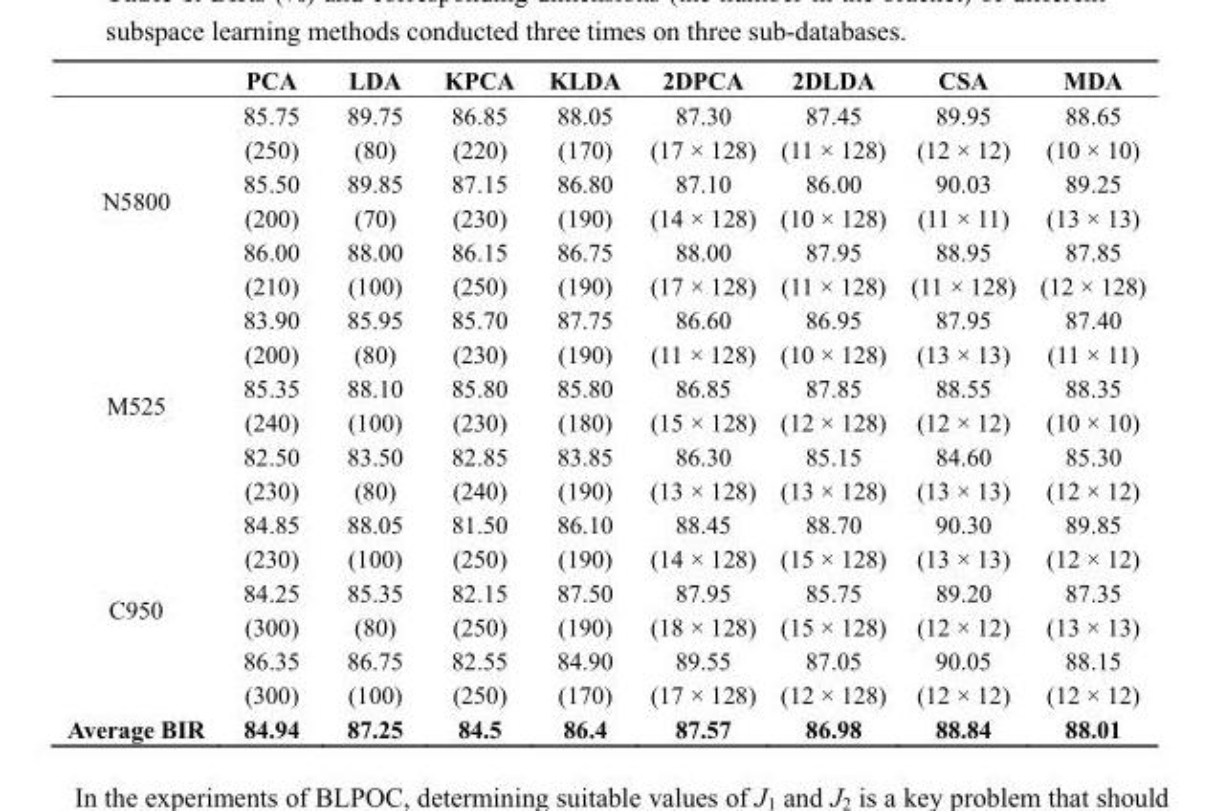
<table><thead><tr><td></td><td>PCA</td><td>LDA</td><td>KPCA</td><td>KLDA</td><td>2DPCA</td><td>2DLDA</td><td>CSA</td><td>MDA</td></tr></thead><tbody><tr><td rowspan="3">N5800</td><td>85.75 (250)</td><td>89.75 (80)</td><td>86.85 (220)</td><td>88.05 (170)</td><td>87.30 (17 × 128)</td><td>87.45 (11 × 128)</td><td>89.95 (12 × 12)</td><td>88.65 (10 × 10)</td></tr><tr><td>85.50 (200)</td><td>89.85 (70)</td><td>87.15 (230)</td><td>86.80 (190)</td><td>87.10 (14 × 128)</td><td>86.00 (10 × 128)</td><td>90.03 (11 × 11)</td><td>89.25 (13 × 13)</td></tr><tr><td>86.00 (210)</td><td>88.00 (100)</td><td>86.15 (250)</td><td>86.75 (190)</td><td>88.00 (17 × 128)</td><td>87.95 (11 × 128)</td><td>88.95 (11 × 128)</td><td>87.85 (12 × 128)</td></tr><tr><td rowspan="3">M525</td><td>83.90 (200)</td><td>85.95 (80)</td><td>85.70 (230)</td><td>87.75 (190)</td><td>86.60 (11 × 128)</td><td>86.95 (10 × 128)</td><td>87.95 (13 × 13)</td><td>87.40 (11 × 11)</td></tr><tr><td>85.35 (240)</td><td>88.10 (100)</td><td>85.80 (230)</td><td>85.80 (180)</td><td>86.85 (15 × 128)</td><td>87.85 (12 × 128)</td><td>88.55 (12 × 12)</td><td>88.35 (10 × 10)</td></tr><tr><td>82.50 (230)</td><td>83.50 (80)</td><td>82.85 (240)</td><td>83.85 (190)</td><td>86.30 (13 × 128)</td><td>85.15 (13 × 128)</td><td>84.60 (13 × 13)</td><td>85.30 (12 × 12)</td></tr><tr><td rowspan="3">C950</td><td>84.85 (230)</td><td>88.05 (100)</td><td>81.50 (250)</td><td>86.10 (190)</td><td>88.45 (14 × 128)</td><td>88.70 (15 × 128)</td><td>90.30 (13 × 13)</td><td>89.85 (12 × 12)</td></tr><tr><td>84.25 (300)</td><td>85.35 (80)</td><td>82.15 (250)</td><td>87.50 (190)</td><td>87.95 (18 × 128)</td><td>85.75 (15 × 128)</td><td>89.20 (12 × 12)</td><td>87.35 (13 × 13)</td></tr><tr><td>86.35 (300)</td><td>86.75 (100)</td><td>82.55 (250)</td><td>84.90 (170)</td><td>89.55 (17 × 128)</td><td>87.05 (12 × 128)</td><td>90.05 (12 × 12)</td><td>88.15 (12 × 12)</td></tr><tr><td>Average BIR</td><td>84.94</td><td>87.25</td><td>84.5</td><td>86.4</td><td>87.57</td><td>86.98</td><td>88.84</td><td>88.01</td></tr></tbody></table>